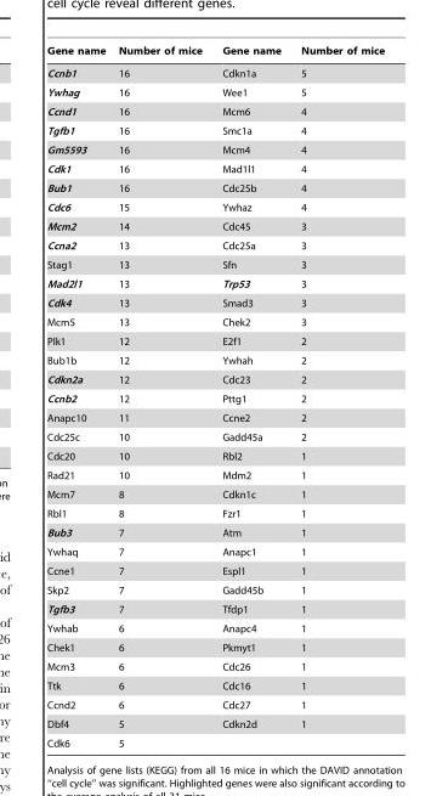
<table><thead><tr><td>Gene name</td><td>Number of mice</td><td>Gene name</td><td>Number of mice</td></tr></thead><tbody><tr><td>Ccnb1</td><td>16</td><td>Cdkn1a</td><td>5</td></tr><tr><td>Ywhag</td><td>16</td><td>Wee1</td><td>5</td></tr><tr><td>Ccnd1</td><td>16</td><td>Mcm6</td><td>4</td></tr><tr><td>Tgfb1</td><td>16</td><td>Smc1a</td><td>4</td></tr><tr><td>Gm5593</td><td>16</td><td>Mcm4</td><td>4</td></tr><tr><td>Cdk1</td><td>16</td><td>Mad1l1</td><td>4</td></tr><tr><td>Bub1</td><td>16</td><td>Cdc25b</td><td>4</td></tr><tr><td>Cdc6</td><td>15</td><td>Ywhaz</td><td>4</td></tr><tr><td>Mcm2</td><td>14</td><td>Cdc45</td><td>3</td></tr><tr><td>Ccna2</td><td>13</td><td>Cdc25a</td><td>3</td></tr><tr><td>Stag1</td><td>13</td><td>Sfn</td><td>3</td></tr><tr><td>Mad2l1</td><td>13</td><td>Trp53</td><td>3</td></tr><tr><td>Cdk4</td><td>13</td><td>Smad3</td><td>3</td></tr><tr><td>Mcm5</td><td>13</td><td>Chek2</td><td>3</td></tr><tr><td>Plk1</td><td>12</td><td>E2f1</td><td>2</td></tr><tr><td>Bub1b</td><td>12</td><td>Ywhah</td><td>2</td></tr><tr><td>Cdkn2a</td><td>12</td><td>Cdc23</td><td>2</td></tr><tr><td>Ccnb2</td><td>12</td><td>Pttg1</td><td>2</td></tr><tr><td>Anapc10</td><td>11</td><td>Ccne2</td><td>2</td></tr><tr><td>Cdc25c</td><td>10</td><td>Gadd45a</td><td>2</td></tr><tr><td>Cdc20</td><td>10</td><td>Rbl2</td><td>1</td></tr><tr><td>Rad21</td><td>10</td><td>Mdm2</td><td>1</td></tr><tr><td>Mcm7</td><td>8</td><td>Cdkn1c</td><td>1</td></tr><tr><td>Rbl1</td><td>8</td><td>Fzr1</td><td>1</td></tr><tr><td>Bub3</td><td>7</td><td>Atm</td><td>1</td></tr><tr><td>Ywhaq</td><td>7</td><td>Anapc1</td><td>1</td></tr><tr><td>Ccne1</td><td>7</td><td>Espl1</td><td>1</td></tr><tr><td>Skp2</td><td>7</td><td>Gadd45b</td><td>1</td></tr><tr><td>Tgfb3</td><td>7</td><td>Tfdp1</td><td>1</td></tr><tr><td>Ywhab</td><td>6</td><td>Anapc4</td><td>1</td></tr><tr><td>Chek1</td><td>6</td><td>Pkmyt1</td><td>1</td></tr><tr><td>Mcm3</td><td>6</td><td>Cdc26</td><td>1</td></tr><tr><td>Ttk</td><td>6</td><td>Cdc16</td><td>1</td></tr><tr><td>Ccnd2</td><td>6</td><td>Cdc27</td><td>1</td></tr><tr><td>Dbf4</td><td>5</td><td>Cdkn2d</td><td>1</td></tr><tr><td>Cdk6</td><td>5</td><td></td><td></td></tr></tbody></table>